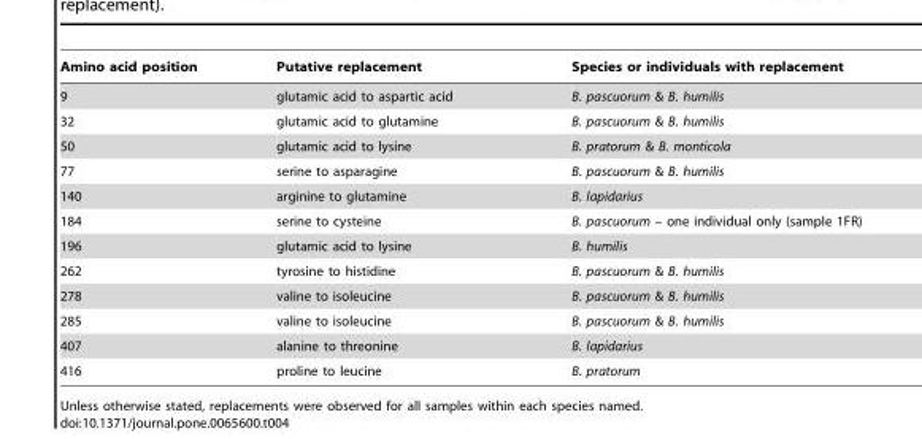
<table><thead><tr><td>Amino acid position</td><td>Putative replacement</td><td>Species or individuals with replacement</td></tr></thead><tbody><tr><td>9</td><td>glutamic acid to aspartic acid</td><td>B. pascuorum &amp; B. humilis</td></tr><tr><td>32</td><td>glutamic acid to glutamine</td><td>B. pascuorum &amp; B. humilis</td></tr><tr><td>50</td><td>glutamic acid to lysine</td><td>B. pratorum &amp; B. monticola</td></tr><tr><td>77</td><td>serine to asparagine</td><td>B. pascuorum &amp; B. humilis</td></tr><tr><td>140</td><td>arginine to glutamine</td><td>B. lapidarius</td></tr><tr><td>184</td><td>serine to cysteine</td><td>B. pascuorum – one individual only (sample 1FR)</td></tr><tr><td>196</td><td>glutamic acid to lysine</td><td>B. humilis</td></tr><tr><td>262</td><td>tyrosine to histidine</td><td>B. pascuorum &amp; B. humilis</td></tr><tr><td>278</td><td>valine to isoleucine</td><td>B. pascuorum &amp; B. humilis</td></tr><tr><td>285</td><td>valine to isoleucine</td><td>B. pascuorum &amp; B. humilis</td></tr><tr><td>407</td><td>alanine to threonine</td><td>B. lapidarius</td></tr><tr><td>416</td><td>proline to leucine</td><td>B. pratorum</td></tr></tbody></table>